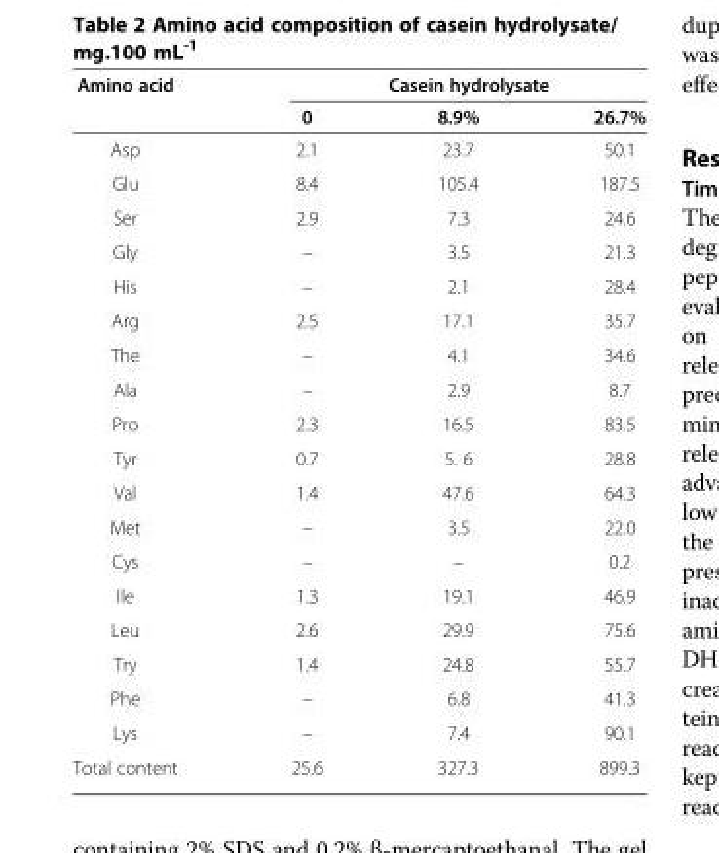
<table><thead><tr><td rowspan="2">Amino acid</td><td colspan="3">Casein hydrolysate</td></tr><tr><td>0</td><td>8.9%</td><td>26.7%</td></tr></thead><tbody><tr><td>Asp</td><td>2.1</td><td>23.7</td><td>50.1</td></tr><tr><td>Glu</td><td>8.4</td><td>105.4</td><td>187.5</td></tr><tr><td>Ser</td><td>2.9</td><td>7.3</td><td>24.6</td></tr><tr><td>Gly</td><td>–</td><td>3.5</td><td>21.3</td></tr><tr><td>His</td><td>–</td><td>2.1</td><td>28.4</td></tr><tr><td>Arg</td><td>2.5</td><td>17.1</td><td>35.7</td></tr><tr><td>The</td><td>–</td><td>4.1</td><td>34.6</td></tr><tr><td>Ala</td><td>–</td><td>2.9</td><td>8.7</td></tr><tr><td>Pro</td><td>2.3</td><td>16.5</td><td>83.5</td></tr><tr><td>Tyr</td><td>0.7</td><td>5. 6</td><td>28.8</td></tr><tr><td>Val</td><td>1.4</td><td>47.6</td><td>64.3</td></tr><tr><td>Met</td><td>–</td><td>3.5</td><td>22.0</td></tr><tr><td>Cys</td><td>–</td><td>–</td><td>0.2</td></tr><tr><td>Ile</td><td>1.3</td><td>19.1</td><td>46.9</td></tr><tr><td>Leu</td><td>2.6</td><td>29.9</td><td>75.6</td></tr><tr><td>Try</td><td>1.4</td><td>24.8</td><td>55.7</td></tr><tr><td>Phe</td><td>–</td><td>6.8</td><td>41.3</td></tr><tr><td>Lys</td><td>–</td><td>7.4</td><td>90.1</td></tr><tr><td>Total content</td><td>25.6</td><td>327.3</td><td>899.3</td></tr></tbody></table>